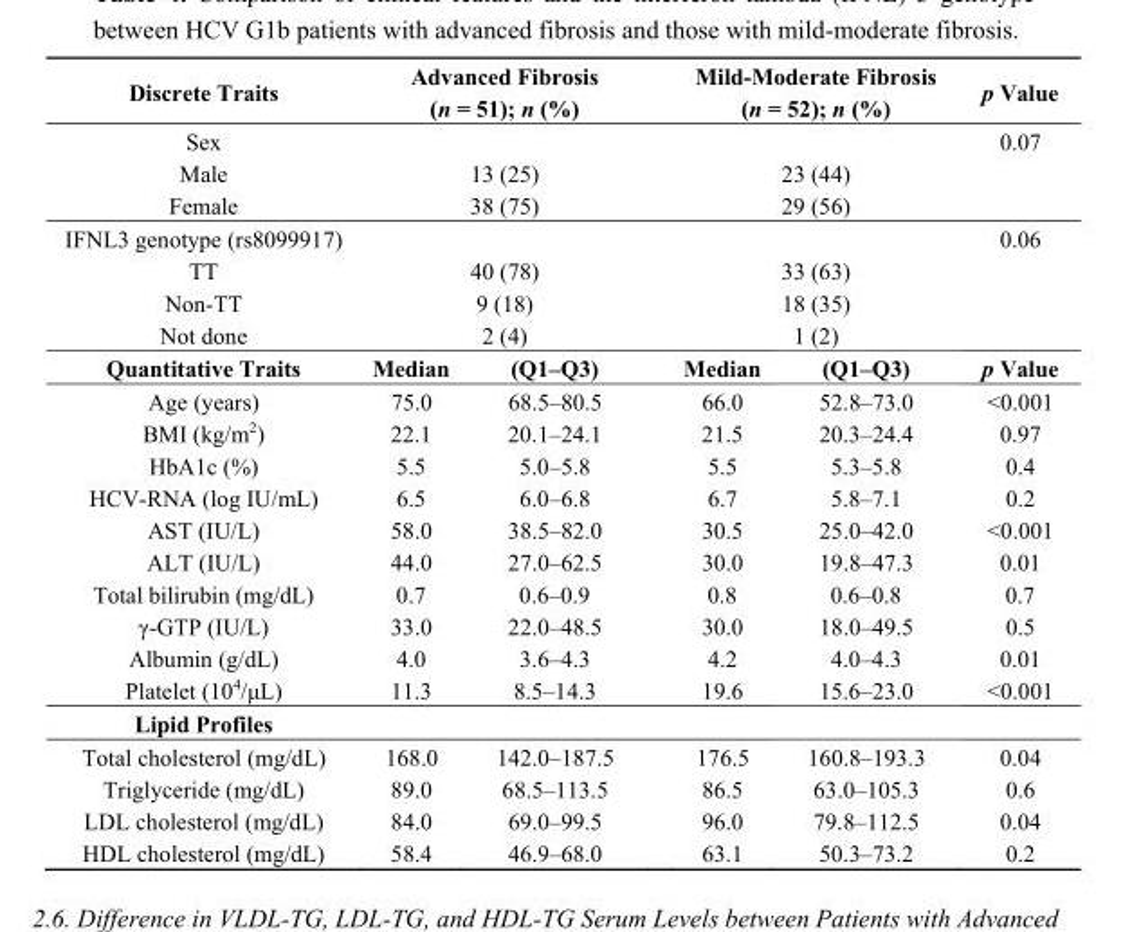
<table><thead><tr><td>Discrete Traits</td><td colspan="2">Advanced Fibrosis (n = 51); n (%)</td><td colspan="2">Mild-Moderate Fibrosis (n = 52); n (%)</td><td>p Value</td></tr></thead><tbody><tr><td>Sex</td><td colspan="4"></td><td>0.07</td></tr><tr><td>Male</td><td colspan="2">13 (25)</td><td colspan="2">23 (44)</td><td></td></tr><tr><td>Female</td><td colspan="2">38 (75)</td><td colspan="2">29 (56)</td><td></td></tr><tr><td>IFNL3 genotype (rs8099917)</td><td colspan="4"></td><td>0.06</td></tr><tr><td>TT</td><td colspan="2">40 (78)</td><td colspan="2">33 (63)</td><td></td></tr><tr><td>Non-TT</td><td colspan="2">9 (18)</td><td colspan="2">18 (35)</td><td></td></tr><tr><td>Not done</td><td colspan="2">2 (4)</td><td colspan="2">1 (2)</td><td></td></tr><tr><td>Quantitative Traits</td><td>Median</td><td>(Q1–Q3)</td><td>Median</td><td>(Q1–Q3)</td><td>p Value</td></tr><tr><td>Age (years)</td><td>75.0</td><td>68.5–80.5</td><td>66.0</td><td>52.8–73.0</td><td>&lt;0.001</td></tr><tr><td>BMI (kg/m<sup>2</sup>)</td><td>22.1</td><td>20.1–24.1</td><td>21.5</td><td>20.3–24.4</td><td>0.97</td></tr><tr><td>HbA1c (%)</td><td>5.5</td><td>5.0–5.8</td><td>5.5</td><td>5.3–5.8</td><td>0.4</td></tr><tr><td>HCV-RNA (log IU/mL)</td><td>6.5</td><td>6.0–6.8</td><td>6.7</td><td>5.8–7.1</td><td>0.2</td></tr><tr><td>AST (IU/L)</td><td>58.0</td><td>38.5–82.0</td><td>30.5</td><td>25.0–42.0</td><td>&lt;0.001</td></tr><tr><td>ALT (IU/L)</td><td>44.0</td><td>27.0–62.5</td><td>30.0</td><td>19.8–47.3</td><td>0.01</td></tr><tr><td>Total bilirubin (mg/dL)</td><td>0.7</td><td>0.6–0.9</td><td>0.8</td><td>0.6–0.8</td><td>0.7</td></tr><tr><td>γ-GTP (IU/L)</td><td>33.0</td><td>22.0–48.5</td><td>30.0</td><td>18.0–49.5</td><td>0.5</td></tr><tr><td>Albumin (g/dL)</td><td>4.0</td><td>3.6–4.3</td><td>4.2</td><td>4.0–4.3</td><td>0.01</td></tr><tr><td>Platelet (10<sup>4</sup>/μL)</td><td>11.3</td><td>8.5–14.3</td><td>19.6</td><td>15.6–23.0</td><td>&lt;0.001</td></tr><tr><td colspan="6">Lipid Profiles</td></tr><tr><td>Total cholesterol (mg/dL)</td><td>168.0</td><td>142.0–187.5</td><td>176.5</td><td>160.8–193.3</td><td>0.04</td></tr><tr><td>Triglyceride (mg/dL)</td><td>89.0</td><td>68.5–113.5</td><td>86.5</td><td>63.0–105.3</td><td>0.6</td></tr><tr><td>LDL cholesterol (mg/dL)</td><td>84.0</td><td>69.0–99.5</td><td>96.0</td><td>79.8–112.5</td><td>0.04</td></tr><tr><td>HDL cholesterol (mg/dL)</td><td>58.4</td><td>46.9–68.0</td><td>63.1</td><td>50.3–73.2</td><td>0.2</td></tr></tbody></table>